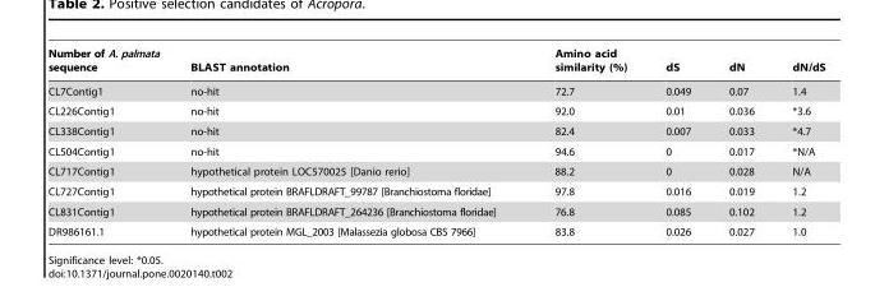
<table><thead><tr><td>Number of A. palmata sequence</td><td>BLAST annotation</td><td>Amino acid similarity (%)</td><td>dS</td><td>dN</td><td>dN/dS</td></tr></thead><tbody><tr><td>CL7Contig1</td><td>no-hit</td><td>72.7</td><td>0.049</td><td>0.07</td><td>1.4</td></tr><tr><td>CL226Contig1</td><td>no-hit</td><td>92.0</td><td>0.01</td><td>0.036</td><td>*3.6</td></tr><tr><td>CL338Contig1</td><td>no-hit</td><td>82.4</td><td>0.007</td><td>0.033</td><td>*4.7</td></tr><tr><td>CL504Contig1</td><td>no-hit</td><td>94.6</td><td>0</td><td>0.017</td><td>*N/A</td></tr><tr><td>CL717Contig1</td><td>hypothetical protein LOC570025 [Danio rerio]</td><td>88.2</td><td>0</td><td>0.028</td><td>N/A</td></tr><tr><td>CL727Contig1</td><td>hypothetical protein BRAFLDRAFT_99787 [Branchiostoma floridae]</td><td>97.8</td><td>0.016</td><td>0.019</td><td>1.2</td></tr><tr><td>CL831Contig1</td><td>hypothetical protein BRAFLDRAFT_264236 [Branchiostoma floridae]</td><td>76.8</td><td>0.085</td><td>0.102</td><td>1.2</td></tr><tr><td>DR986161.1</td><td>hypothetical protein MGL_2003 [Malassezia globosa CBS 7966]</td><td>83.8</td><td>0.026</td><td>0.027</td><td>1.0</td></tr></tbody></table>